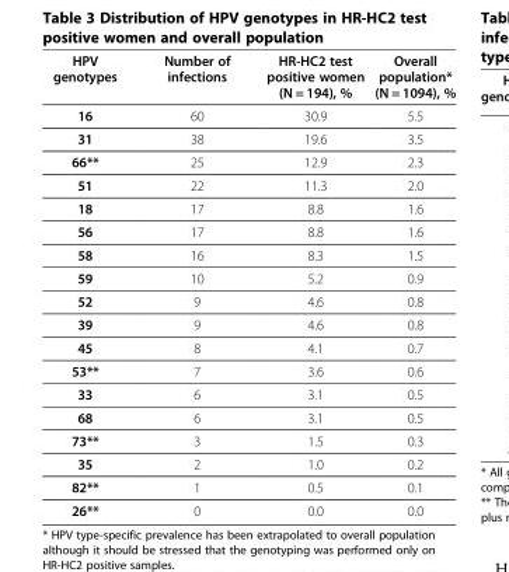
<table><thead><tr><td>HPV genotypes</td><td>Number of infections</td><td>HR-HC2 test positive women (N = 194), %</td><td>Overall population* (N = 1094), %</td></tr></thead><tbody><tr><td>16</td><td>60</td><td>30.9</td><td>5.5</td></tr><tr><td>31</td><td>38</td><td>19.6</td><td>3.5</td></tr><tr><td>66**</td><td>25</td><td>12.9</td><td>2.3</td></tr><tr><td>51</td><td>22</td><td>11.3</td><td>2.0</td></tr><tr><td>18</td><td>17</td><td>8.8</td><td>1.6</td></tr><tr><td>56</td><td>17</td><td>8.8</td><td>1.6</td></tr><tr><td>58</td><td>16</td><td>8.3</td><td>1.5</td></tr><tr><td>59</td><td>10</td><td>5.2</td><td>0.9</td></tr><tr><td>52</td><td>9</td><td>4.6</td><td>0.8</td></tr><tr><td>39</td><td>9</td><td>4.6</td><td>0.8</td></tr><tr><td>45</td><td>8</td><td>4.1</td><td>0.7</td></tr><tr><td>53**</td><td>7</td><td>3.6</td><td>0.6</td></tr><tr><td>33</td><td>6</td><td>3.1</td><td>0.5</td></tr><tr><td>68</td><td>6</td><td>3.1</td><td>0.5</td></tr><tr><td>73**</td><td>3</td><td>1.5</td><td>0.3</td></tr><tr><td>35</td><td>2</td><td>1.0</td><td>0.2</td></tr><tr><td>82**</td><td>1</td><td>0.5</td><td>0.1</td></tr><tr><td>26**</td><td>0</td><td>0.0</td><td>0.0</td></tr></tbody></table>